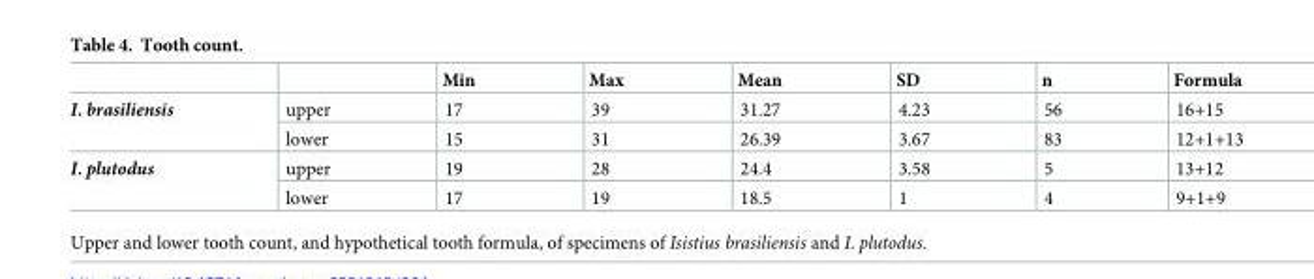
<table><thead><tr><td></td><td></td><td>Min</td><td>Max</td><td>Mean</td><td>SD</td><td>n</td><td>Formula</td></tr></thead><tbody><tr><td rowspan="2">I. brasiliensis</td><td>upper</td><td>17</td><td>39</td><td>31.27</td><td>4.23</td><td>56</td><td>16+15</td></tr><tr><td>lower</td><td>15</td><td>31</td><td>26.39</td><td>3.67</td><td>83</td><td>12+1+13</td></tr><tr><td rowspan="2">I. plutodus</td><td>upper</td><td>19</td><td>28</td><td>24.4</td><td>3.58</td><td>5</td><td>13+12</td></tr><tr><td>lower</td><td>17</td><td>19</td><td>18.5</td><td>1</td><td>4</td><td>9+1+9</td></tr></tbody></table>